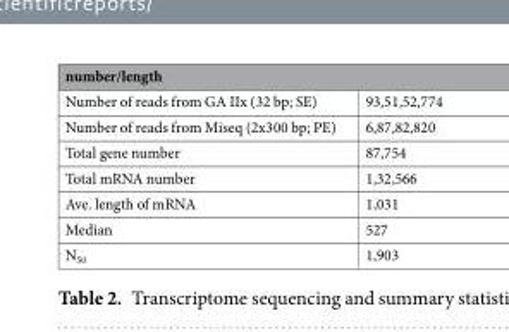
<table><thead><tr><td colspan="2">number/length</td></tr><tr><td>Number of reads from GA IIx (32 bp; SE)</td><td>93,51,52,774</td></tr></thead><tbody><tr><td>Number of reads from Miseq (2x300 bp; PE)</td><td>6,87,82,820</td></tr><tr><td>Total gene number</td><td>87,754</td></tr><tr><td>Total mRNA number</td><td>1,32,566</td></tr><tr><td>Ave. length of mRNA</td><td>1,031</td></tr><tr><td>Median</td><td>527</td></tr><tr><td>N<sub>50</sub></td><td>1,903</td></tr></tbody></table>